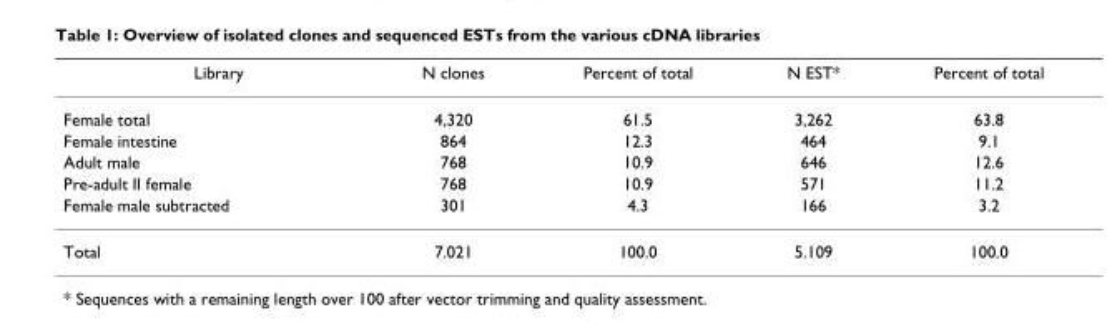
<table><thead><tr><td>Library</td><td>N clones</td><td>Percent of total</td><td>N EST*</td><td>Percent of total</td></tr></thead><tbody><tr><td>Female total</td><td>4,320</td><td>61.5</td><td>3,262</td><td>63.8</td></tr><tr><td>Female intestine</td><td>864</td><td>12.3</td><td>464</td><td>9.1</td></tr><tr><td>Adult male</td><td>768</td><td>10.9</td><td>646</td><td>12.6</td></tr><tr><td>Pre-adult II female</td><td>768</td><td>10.9</td><td>571</td><td>11.2</td></tr><tr><td>Female male subtracted</td><td>301</td><td>4.3</td><td>166</td><td>3.2</td></tr><tr><td>Total</td><td>7.021</td><td>100.0</td><td>5.109</td><td>100.0</td></tr></tbody></table>